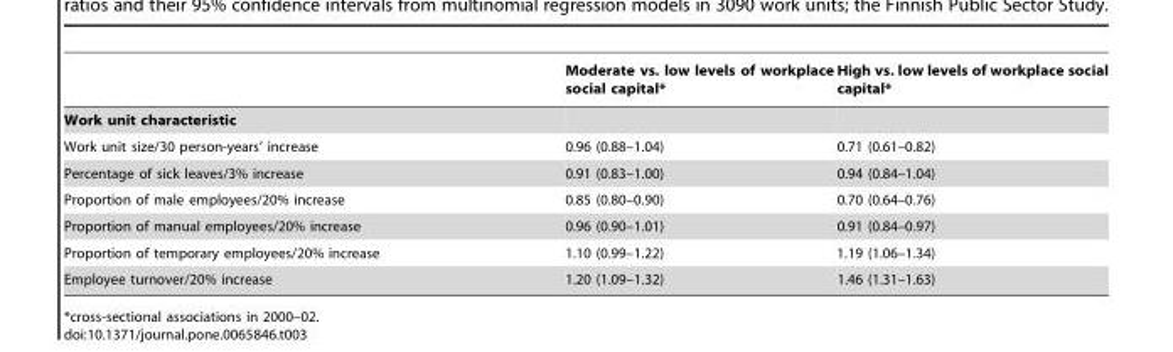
<table><thead><tr><td></td><td>Moderate vs. low levels of workplace social capital*</td><td>High vs. low levels of workplace social capital*</td></tr></thead><tbody><tr><td colspan="3">Work unit characteristic</td></tr><tr><td>Work unit size/30 person-years’ increase</td><td>0.96 (0.88–1.04)</td><td>0.71 (0.61–0.82)</td></tr><tr><td>Percentage of sick leaves/3% increase</td><td>0.91 (0.83–1.00)</td><td>0.94 (0.84–1.04)</td></tr><tr><td>Proportion of male employees/20% increase</td><td>0.85 (0.80–0.90)</td><td>0.70 (0.64–0.76)</td></tr><tr><td>Proportion of manual employees/20% increase</td><td>0.96 (0.90–1.01)</td><td>0.91 (0.84–0.97)</td></tr><tr><td>Proportion of temporary employees/20% increase</td><td>1.10 (0.99–1.22)</td><td>1.19 (1.06–1.34)</td></tr><tr><td>Employee turnover/20% increase</td><td>1.20 (1.09–1.32)</td><td>1.46 (1.31–1.63)</td></tr></tbody></table>